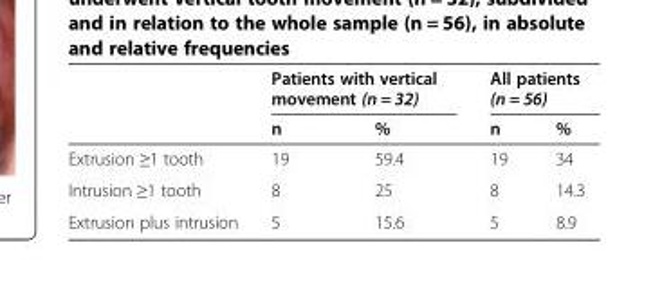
<table><thead><tr><td rowspan="2"></td><td colspan="2">Patients with vertical movement (n = 32)</td><td colspan="2">All patients (n = 56)</td></tr><tr><td>n</td><td>%</td><td>n</td><td>%</td></tr></thead><tbody><tr><td>Extrusion ≥1 tooth</td><td>19</td><td>59.4</td><td>19</td><td>34</td></tr><tr><td>Intrusion ≥1 tooth</td><td>8</td><td>25</td><td>8</td><td>14.3</td></tr><tr><td>Extrusion plus intrusion</td><td>5</td><td>15.6</td><td>5</td><td>8.9</td></tr></tbody></table>